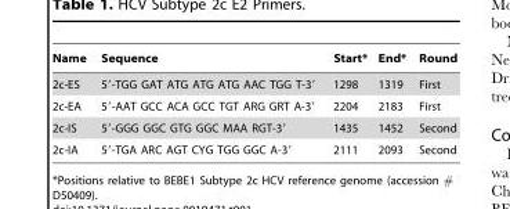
<table><thead><tr><td>Name</td><td>Sequence</td><td>Start*</td><td>End*</td><td>Round</td></tr></thead><tbody><tr><td>2c-ES</td><td>5′-TGG GAT ATG ATG ATG AAC TGG T-3′</td><td>1298</td><td>1319</td><td>First</td></tr><tr><td>2c-EA</td><td>5′-AAT GCC ACA GCC TGT ARG GRT A-3′</td><td>2204</td><td>2183</td><td>First</td></tr><tr><td>2c-IS</td><td>5′-GGG GGC GTG GGC MAA RGT-3′</td><td>1435</td><td>1452</td><td>Second</td></tr><tr><td>2c-IA</td><td>5′-TGA ARC AGT CYG TGG GGC A-3′</td><td>2111</td><td>2093</td><td>Second</td></tr></tbody></table>